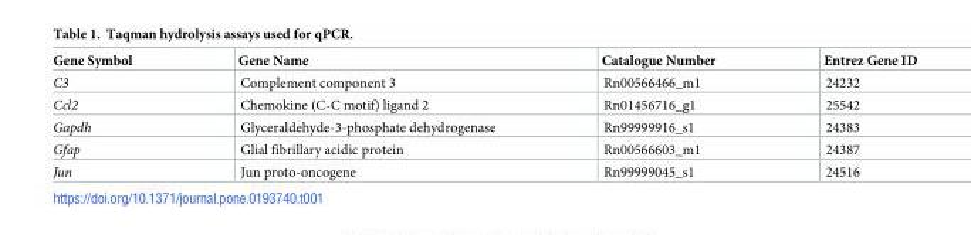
<table><thead><tr><td>Gene Symbol</td><td>Gene Name</td><td>Catalogue Number</td><td>Entrez Gene ID</td></tr></thead><tbody><tr><td>C3</td><td>Complement component 3</td><td>Rn00566466_m1</td><td>24232</td></tr><tr><td>Ccl2</td><td>Chemokine (C-C motif) ligand 2</td><td>Rn01456716_g1</td><td>25542</td></tr><tr><td>Gapdh</td><td>Glyceraldehyde-3-phosphate dehydrogenase</td><td>Rn99999916_s1</td><td>24383</td></tr><tr><td>Gfap</td><td>Glial fibrillary acidic protein</td><td>Rn00566603_m1</td><td>24387</td></tr><tr><td>Jun</td><td>Jun proto-oncogene</td><td>Rn99999045_s1</td><td>24516</td></tr></tbody></table>